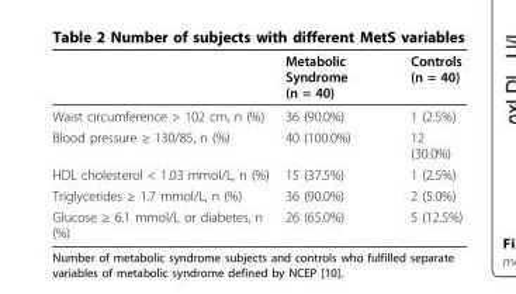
<table><thead><tr><td></td><td>Metabolic Syndrome (n = 40)</td><td>Controls (n = 40)</td></tr></thead><tbody><tr><td>Waist circumference &gt; 102 cm, n (%)</td><td>36 (90.0%)</td><td>1 (2.5%)</td></tr><tr><td>Blood pressure ≥ 130/85, n (%)</td><td>40 (100.0%)</td><td>12 (30.0%)</td></tr><tr><td>HDL cholesterol &lt; 1.03 mmol/L, n (%)</td><td>15 (37.5%)</td><td>1 (2.5%)</td></tr><tr><td>Triglycerides ≥ 1.7 mmol/L, n (%)</td><td>36 (90.0%)</td><td>2 (5.0%)</td></tr><tr><td>Glucose ≥ 6.1 mmol/L or diabetes, n (%)</td><td>26 (65.0%)</td><td>5 (12.5%)</td></tr></tbody></table>